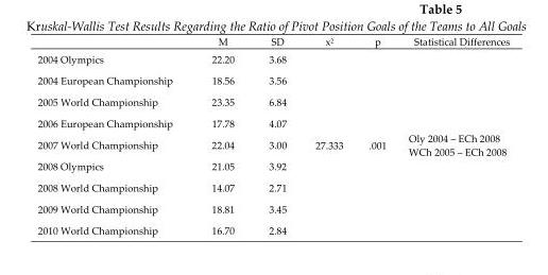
<table><thead><tr><td></td><td>M</td><td>SD</td><td>x<sup>2</sup></td><td>p</td><td>Statistical Differences</td></tr></thead><tbody><tr><td>2004 Olympics</td><td>22.20</td><td>3.68</td><td rowspan="9">27.333</td><td rowspan="9">.001</td><td rowspan="9">Oly 2004 – ECh 2008 WCh 2005 – ECh 2008</td></tr><tr><td>2004 European Championship</td><td>18.56</td><td>3.56</td></tr><tr><td>2005 World Championship</td><td>23.35</td><td>6.84</td></tr><tr><td>2006 European Championship</td><td>17.78</td><td>4.07</td></tr><tr><td>2007 World Championship</td><td>22.04</td><td>3.00</td></tr><tr><td>2008 Olympics</td><td>21.05</td><td>3.92</td></tr><tr><td>2008 World Championship</td><td>14.07</td><td>2.71</td></tr><tr><td>2009 World Championship</td><td>18.81</td><td>3.45</td></tr><tr><td>2010 World Championship</td><td>16.70</td><td>2.84</td></tr></tbody></table>